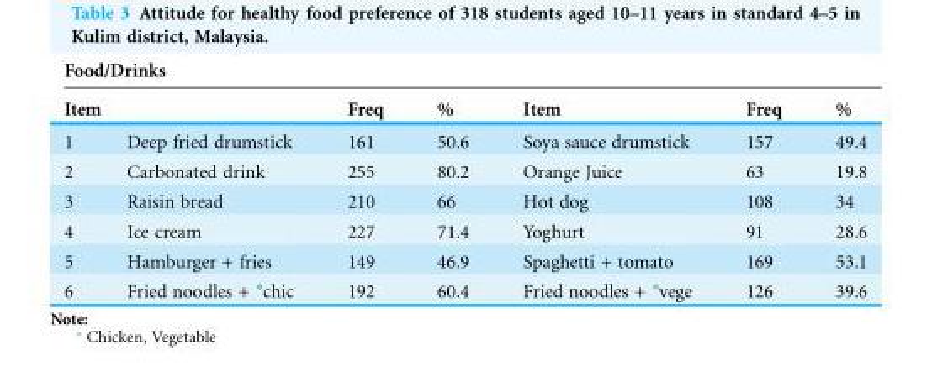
<table><thead><tr><td colspan="7">Food/Drinks</td></tr><tr><td colspan="2">Item</td><td rowspan="2">Freq 161</td><td rowspan="2">% 50.6</td><td rowspan="2">Item Soya sauce drumstick</td><td rowspan="2">Freq 157</td><td rowspan="2">% 49.4</td></tr><tr><td>1</td><td>Deep fried drumstick</td></tr></thead><tbody><tr><td>2</td><td>Carbonated drink</td><td>255</td><td>80.2</td><td>Orange Juice</td><td>63</td><td>19.8</td></tr><tr><td>3</td><td>Raisin bread</td><td>210</td><td>66</td><td>Hot dog</td><td>108</td><td>34</td></tr><tr><td>4</td><td>Ice cream</td><td>227</td><td>71.4</td><td>Yoghurt</td><td>91</td><td>28.6</td></tr><tr><td>5</td><td>Hamburger + fries</td><td>149</td><td>46.9</td><td>Spaghetti + tomato</td><td>169</td><td>53.1</td></tr><tr><td>6</td><td>Fried noodles + *chic</td><td>192</td><td>60.4</td><td>Fried noodles + *vege</td><td>126</td><td>39.6</td></tr></tbody></table>